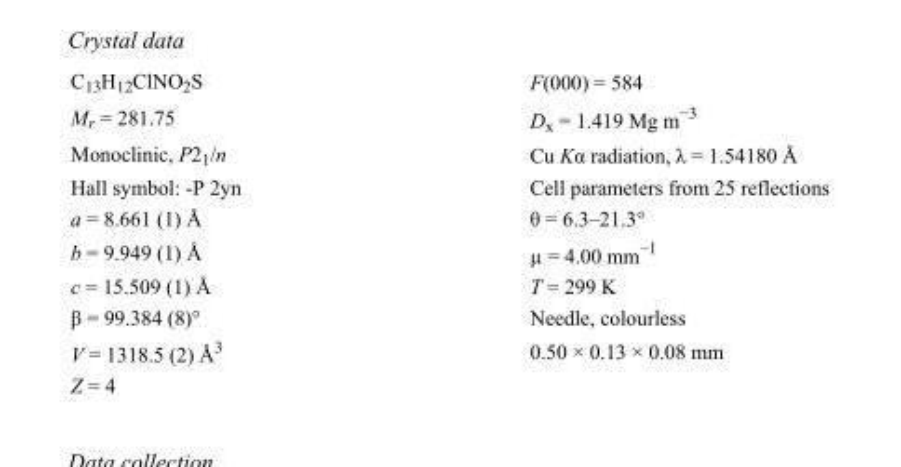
<table><tbody><tr><td>C<sub>13</sub>H<sub>12</sub>ClNO<sub>2</sub>S</td><td>F(000) = 584</td></tr><tr><td>M<sub>r</sub> = 281.75</td><td>D<sub>x</sub> = 1.419 Mg m<sup>−3</sup></td></tr><tr><td>Monoclinic, P2<sub>1</sub>/n</td><td>Cu Kα radiation, λ = 1.54180 Å</td></tr><tr><td>Hall symbol: -P 2yn</td><td>Cell parameters from 25 reflections</td></tr><tr><td>a = 8.661 (1) Å</td><td>θ = 6.3–21.3°</td></tr><tr><td>b = 9.949 (1) Å</td><td>µ = 4.00 mm<sup>−1</sup></td></tr><tr><td>c = 15.509 (1) Å</td><td>T = 299 K</td></tr><tr><td>β = 99.384 (8)°</td><td>Needle, colourless</td></tr><tr><td>V = 1318.5 (2) Å<sup>3</sup></td><td>0.50 × 0.13 × 0.08 mm</td></tr><tr><td>Z = 4</td><td></td></tr></tbody></table>